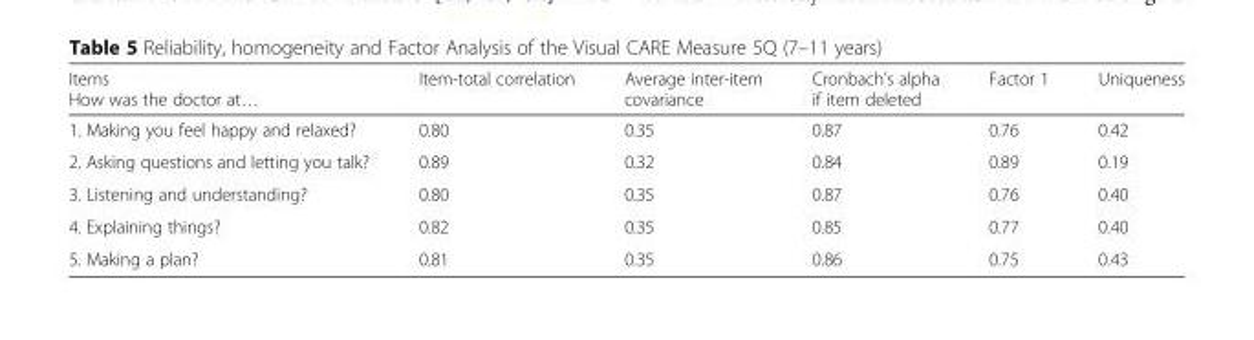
<table><thead><tr><td>Items How was the doctor at…</td><td>Item-total correlation</td><td>Average inter-item covariance</td><td>Cronbach’s alpha if item deleted</td><td>Factor 1</td><td>Uniqueness</td></tr></thead><tbody><tr><td>1. Making you feel happy and relaxed?</td><td>0.80</td><td>0.35</td><td>0.87</td><td>0.76</td><td>0.42</td></tr><tr><td>2. Asking questions and letting you talk?</td><td>0.89</td><td>0.32</td><td>0.84</td><td>0.89</td><td>0.19</td></tr><tr><td>3. Listening and understanding?</td><td>0.80</td><td>0.35</td><td>0.87</td><td>0.76</td><td>0.40</td></tr><tr><td>4. Explaining things?</td><td>0.82</td><td>0.35</td><td>0.85</td><td>0.77</td><td>0.40</td></tr><tr><td>5. Making a plan?</td><td>0.81</td><td>0.35</td><td>0.86</td><td>0.75</td><td>0.43</td></tr></tbody></table>